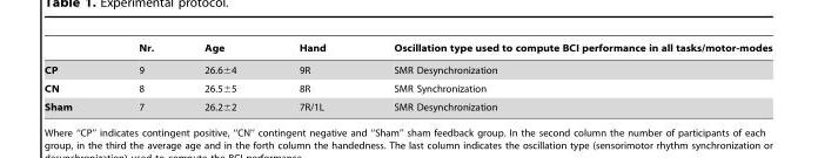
<table><thead><tr><td></td><td>Nr.</td><td>Age</td><td>Hand</td><td>Oscillation type used to compute BCI performance in all tasks/motor-modes</td></tr></thead><tbody><tr><td>CP</td><td>9</td><td>26.6±4</td><td>9R</td><td>SMR Desynchronization</td></tr><tr><td>CN</td><td>8</td><td>26.5±5</td><td>8R</td><td>SMR Synchronization</td></tr><tr><td>Sham</td><td>7</td><td>26.2±2</td><td>7R/1L</td><td>SMR Desynchronization</td></tr></tbody></table>